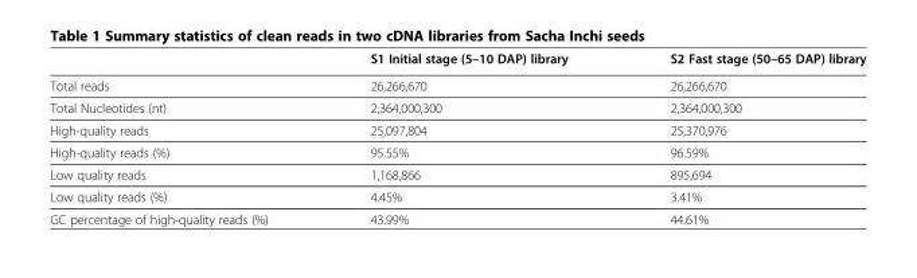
<table><thead><tr><td></td><td>S1 Initial stage (5–10 DAP) library</td><td>S2 Fast stage (50–65 DAP) library</td></tr></thead><tbody><tr><td>Total reads</td><td>26,266,670</td><td>26,266,670</td></tr><tr><td>Total Nucleotides (nt)</td><td>2,364,000,300</td><td>2,364,000,300</td></tr><tr><td>High-quality reads</td><td>25,097,804</td><td>25,370,976</td></tr><tr><td>High-quality reads (%)</td><td>95.55%</td><td>96.59%</td></tr><tr><td>Low quality reads</td><td>1,168,866</td><td>895,694</td></tr><tr><td>Low quality reads (%)</td><td>4.45%</td><td>3.41%</td></tr><tr><td>GC percentage of high-quality reads (%)</td><td>43.99%</td><td>44.61%</td></tr></tbody></table>